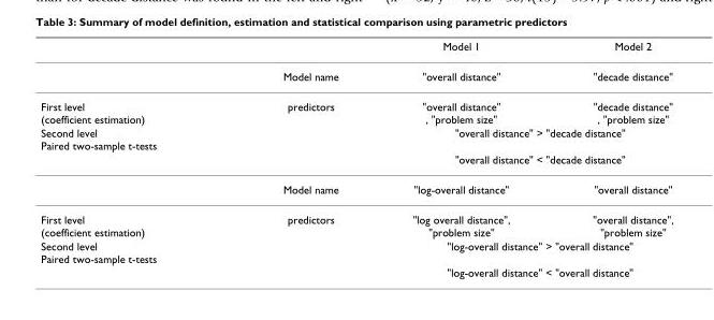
<table><thead><tr><td></td><td></td><td>Model 1</td><td>Model 2</td></tr></thead><tbody><tr><td></td><td>Model name</td><td>&quot;overall distance&quot;</td><td>&quot;decade distance&quot;</td></tr><tr><td>First level (coefficient estimation)</td><td>predictors</td><td>&quot;overall distance&quot; , &quot;problem size&quot;</td><td>&quot;decade distance&quot; , &quot;problem size&quot;</td></tr><tr><td rowspan="3">Second level Paired two-sample t-tests</td><td></td><td colspan="2">&quot;overall distance&quot; &gt; &quot;decade distance&quot;</td></tr><tr><td></td><td colspan="2">&quot;overall distance&quot; &lt; &quot;decade distance&quot;</td></tr><tr><td>Model name</td><td>&quot;log-overall distance&quot;</td><td>&quot;overall distance&quot;</td></tr><tr><td>First level (coefficient estimation)</td><td>predictors</td><td>&quot;log overall distance&quot;, &quot;problem size&quot;</td><td>&quot;overall distance&quot;, &quot;problem size&quot;</td></tr><tr><td rowspan="2">Second level Paired two-sample t-tests</td><td></td><td colspan="2">&quot;log-overall distance&quot; &gt; &quot;overall distance&quot;</td></tr><tr><td></td><td colspan="2">&quot;log-overall distance&quot; &lt; &quot;overall distance&quot;</td></tr></tbody></table>